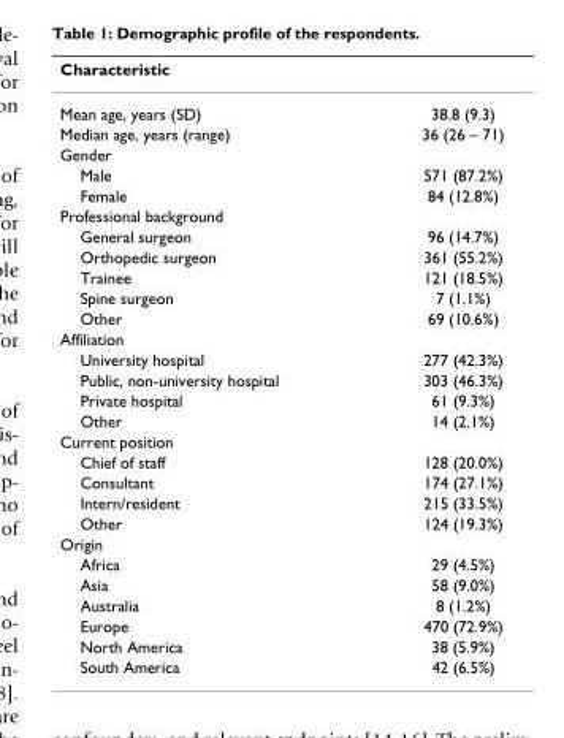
<table><thead><tr><td>Characteristic</td><td></td></tr></thead><tbody><tr><td>Mean age, years (SD)</td><td>38.8 (9.3)</td></tr><tr><td>Median age, years (range)</td><td>36 (26 – 71)</td></tr><tr><td colspan="2">Gender</td></tr><tr><td>Male</td><td>571 (87.2%)</td></tr><tr><td>Female</td><td>84 (12.8%)</td></tr><tr><td colspan="2">Professional background</td></tr><tr><td>General surgeon</td><td>96 (14.7%)</td></tr><tr><td>Orthopedic surgeon</td><td>361 (55.2%)</td></tr><tr><td>Trainee</td><td>121 (18.5%)</td></tr><tr><td>Spine surgeon</td><td>7 (1.1%)</td></tr><tr><td>Other</td><td>69 (10.6%)</td></tr><tr><td colspan="2">Affiliation</td></tr><tr><td>University hospital</td><td>277 (42.3%)</td></tr><tr><td>Public, non-university hospital</td><td>303 (46.3%)</td></tr><tr><td>Private hospital</td><td>61 (9.3%)</td></tr><tr><td>Other</td><td>14 (2.1%)</td></tr><tr><td colspan="2">Current position</td></tr><tr><td>Chief of staff</td><td>128 (20.0%)</td></tr><tr><td>Consultant</td><td>174 (27.1%)</td></tr><tr><td>Intern/resident</td><td>215 (33.5%)</td></tr><tr><td>Other</td><td>124 (19.3%)</td></tr><tr><td colspan="2">Origin</td></tr><tr><td>Africa</td><td>29 (4.5%)</td></tr><tr><td>Asia</td><td>58 (9.0%)</td></tr><tr><td>Australia</td><td>8 (1.2%)</td></tr><tr><td>Europe</td><td>470 (72.9%)</td></tr><tr><td>North America</td><td>38 (5.9%)</td></tr><tr><td>South America</td><td>42 (6.5%)</td></tr></tbody></table>